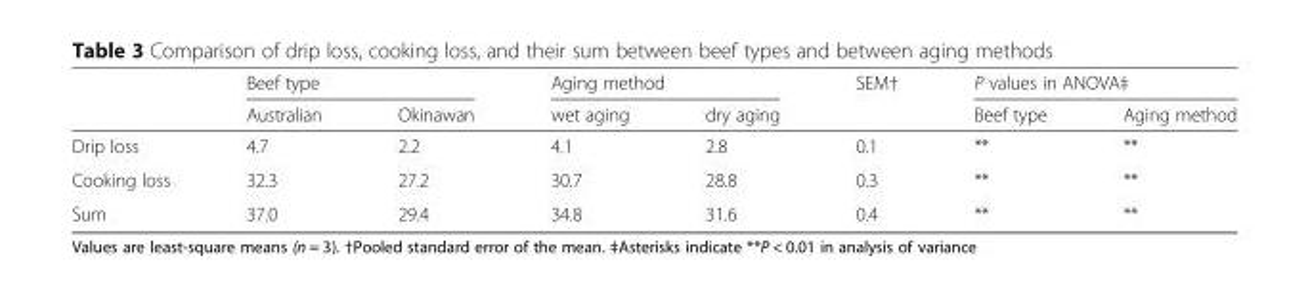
<table><thead><tr><td rowspan="2"></td><td colspan="2">Beef type</td><td colspan="2">Aging method</td><td rowspan="2">SEM†</td><td colspan="2">P values in ANOVA‡</td></tr><tr><td>Australian</td><td>Okinawan</td><td>wet aging</td><td>dry aging</td><td>Beef type</td><td>Aging method</td></tr></thead><tbody><tr><td>Drip loss</td><td>4.7</td><td>2.2</td><td>4.1</td><td>2.8</td><td>0.1</td><td>**</td><td>**</td></tr><tr><td>Cooking loss</td><td>32.3</td><td>27.2</td><td>30.7</td><td>28.8</td><td>0.3</td><td>**</td><td>**</td></tr><tr><td>Sum</td><td>37.0</td><td>29.4</td><td>34.8</td><td>31.6</td><td>0.4</td><td>**</td><td>**</td></tr></tbody></table>